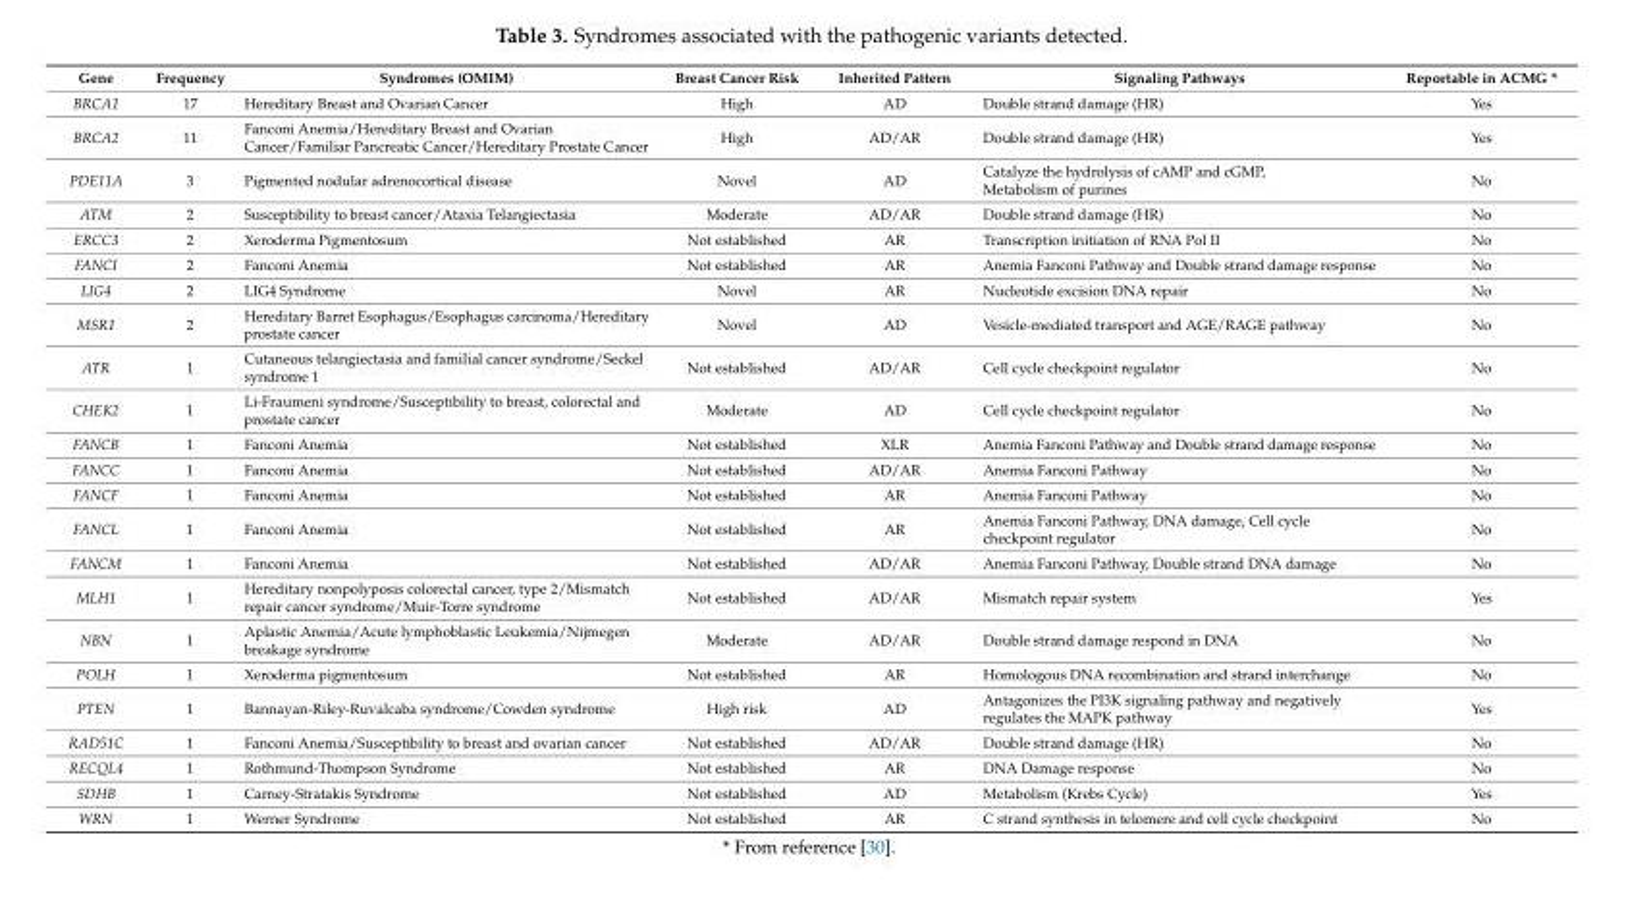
<table><thead><tr><td>Gene</td><td>Frequency</td><td>Syndromes (OMIM)</td><td>Breast Cancer Risk</td><td>Inherited Pattern</td><td>Signaling Pathways</td><td>Reportable in ACMG *</td></tr></thead><tbody><tr><td>BRCA1</td><td>17</td><td>Hereditary Breast and Ovarian Cancer</td><td>High</td><td>AD</td><td>Double strand damage (HR)</td><td>Yes</td></tr><tr><td>BRCA2</td><td>11</td><td>Fanconi Anemia/Hereditary Breast and Ovarian Cancer/Familiar Pancreatic Cancer/Hereditary Prostate Cancer</td><td>High</td><td>AD/AR</td><td>Double strand damage (HR)</td><td>Yes</td></tr><tr><td>PDE11A</td><td>3</td><td>Pigmented nodular adrenocortical disease</td><td>Novel</td><td>AD</td><td>Catalyze the hydrolysis of cAMP and cGMP, Metabolism of purines</td><td>No</td></tr><tr><td>ATM</td><td>2</td><td>Susceptibility to breast cancer/Ataxia Telangiectasia</td><td>Moderate</td><td>AD/AR</td><td>Double strand damage (HR)</td><td>No</td></tr><tr><td>ERCC3</td><td>2</td><td>Xeroderma Pigmentosum</td><td>Not established</td><td>AR</td><td>Transcription initiation of RNA Pol II</td><td>No</td></tr><tr><td>FANCI</td><td>2</td><td>Fanconi Anemia</td><td>Not established</td><td>AR</td><td>Anemia Fanconi Pathway and Double strand damage response</td><td>No</td></tr><tr><td>LIG4</td><td>2</td><td>LIG4 Syndrome</td><td>Novel</td><td>AR</td><td>Nucleotide excision DNA repair</td><td>No</td></tr><tr><td>MSR1</td><td>2</td><td>Hereditary Barret Esophagus/Esophagus carcinoma/Hereditary prostate cancer</td><td>Novel</td><td>AD</td><td>Vesicle-mediated transport and AGE/RAGE pathway</td><td>No</td></tr><tr><td>ATR</td><td>1</td><td>Cutaneous telangiectasia and familial cancer syndrome/Seckel syndrome 1</td><td>Not established</td><td>AD/AR</td><td>Cell cycle checkpoint regulator</td><td>No</td></tr><tr><td>CHEK2</td><td>1</td><td>Li-Fraumeni syndrome/Susceptibility to breast, colorectal and prostate cancer</td><td>Moderate</td><td>AD</td><td>Cell cycle checkpoint regulator</td><td>No</td></tr><tr><td>FANCB</td><td>1</td><td>Fanconi Anemia</td><td>Not established</td><td>XLR</td><td>Anemia Fanconi Pathway and Double strand damage response</td><td>No</td></tr><tr><td>FANCC</td><td>1</td><td>Fanconi Anemia</td><td>Not established</td><td>AD/AR</td><td>Anemia Fanconi Pathway</td><td>No</td></tr><tr><td>FANCF</td><td>1</td><td>Fanconi Anemia</td><td>Not established</td><td>AR</td><td>Anemia Fanconi Pathway</td><td>No</td></tr><tr><td>FANCL</td><td>1</td><td>Fanconi Anemia</td><td>Not established</td><td>AR</td><td>Anemia Fanconi Pathway, DNA damage, Cell cycle checkpoint regulator</td><td>No</td></tr><tr><td>FANCM</td><td>1</td><td>Fanconi Anemia</td><td>Not established</td><td>AD/AR</td><td>Anemia Fanconi Pathway, Double strand DNA damage</td><td>No</td></tr><tr><td>MLH1</td><td>1</td><td>Hereditary nonpolyposis colorectal cancer, type 2/Mismatch repair cancer syndrome/Muir-Torre syndrome</td><td>Not established</td><td>AD/AR</td><td>Mismatch repair system</td><td>Yes</td></tr><tr><td>NBN</td><td>1</td><td>Aplastic Anemia/Acute lymphoblastic Leukemia/Nijmegen breakage syndrome</td><td>Moderate</td><td>AD/AR</td><td>Double strand damage respond in DNA</td><td>No</td></tr><tr><td>POLH</td><td>1</td><td>Xeroderma pigmentosum</td><td>Not established</td><td>AR</td><td>Homologous DNA recombination and strand interchange</td><td>No</td></tr><tr><td>PTEN</td><td>1</td><td>Bannayan-Riley-Ruvalcaba syndrome/Cowden syndrome</td><td>High risk</td><td>AD</td><td>Antagonizes the PI3K signaling pathway and negatively regulates the MAPK pathway</td><td>Yes</td></tr><tr><td>RAD51C</td><td>1</td><td>Fanconi Anemia/Susceptibility to breast and ovarian cancer</td><td>Not established</td><td>AD/AR</td><td>Double strand damage (HR)</td><td>No</td></tr><tr><td>RECQL4</td><td>1</td><td>Rothmund-Thompson Syndrome</td><td>Not established</td><td>AR</td><td>DNA Damage response</td><td>No</td></tr><tr><td>SDHB</td><td>1</td><td>Carney-Stratakis Syndrome</td><td>Not established</td><td>AD</td><td>Metabolism (Krebs Cycle)</td><td>Yes</td></tr><tr><td>WRN</td><td>1</td><td>Werner Syndrome</td><td>Not established</td><td>AR</td><td>C strand synthesis in telomere and cell cycle checkpoint</td><td>No</td></tr></tbody></table>